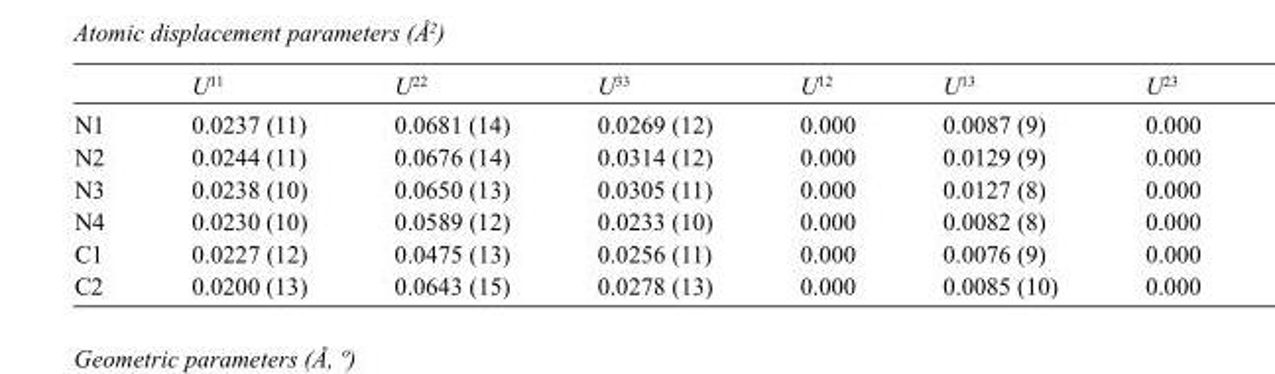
<table><thead><tr><td></td><td>U<sup>11</sup></td><td>U<sup>22</sup></td><td>U<sup>33</sup></td><td>U<sup>12</sup></td><td>U<sup>13</sup></td><td>U<sup>23</sup></td></tr></thead><tbody><tr><td>N1</td><td>0.0237 (11)</td><td>0.0681 (14)</td><td>0.0269 (12)</td><td>0.000</td><td>0.0087 (9)</td><td>0.000</td></tr><tr><td>N2</td><td>0.0244 (11)</td><td>0.0676 (14)</td><td>0.0314 (12)</td><td>0.000</td><td>0.0129 (9)</td><td>0.000</td></tr><tr><td>N3</td><td>0.0238 (10)</td><td>0.0650 (13)</td><td>0.0305 (11)</td><td>0.000</td><td>0.0127 (8)</td><td>0.000</td></tr><tr><td>N4</td><td>0.0230 (10)</td><td>0.0589 (12)</td><td>0.0233 (10)</td><td>0.000</td><td>0.0082 (8)</td><td>0.000</td></tr><tr><td>C1</td><td>0.0227 (12)</td><td>0.0475 (13)</td><td>0.0256 (11)</td><td>0.000</td><td>0.0076 (9)</td><td>0.000</td></tr><tr><td>C2</td><td>0.0200 (13)</td><td>0.0643 (15)</td><td>0.0278 (13)</td><td>0.000</td><td>0.0085 (10)</td><td>0.000</td></tr></tbody></table>